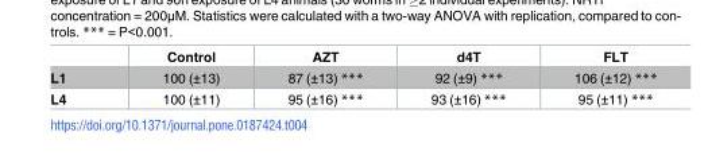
<table><thead><tr><td></td><td>Control</td><td>AZT</td><td>d4T</td><td>FLT</td></tr></thead><tbody><tr><td>L1</td><td>100 (±13)</td><td>87 (±13) ***</td><td>92 (±9) ***</td><td>106 (±12) ***</td></tr><tr><td>L4</td><td>100 (±11)</td><td>95 (±16) ***</td><td>93 (±16) ***</td><td>95 (±11) ***</td></tr></tbody></table>